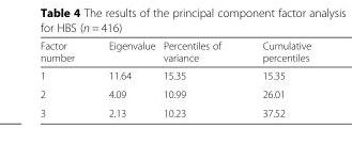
<table><thead><tr><td>Factor number</td><td>Eigenvalue</td><td>Percentiles of variance</td><td>Cumulative percentiles</td></tr></thead><tbody><tr><td>1</td><td>11.64</td><td>15.35</td><td>15.35</td></tr><tr><td>2</td><td>4.09</td><td>10.99</td><td>26.01</td></tr><tr><td>3</td><td>2.13</td><td>10.23</td><td>37.52</td></tr></tbody></table>